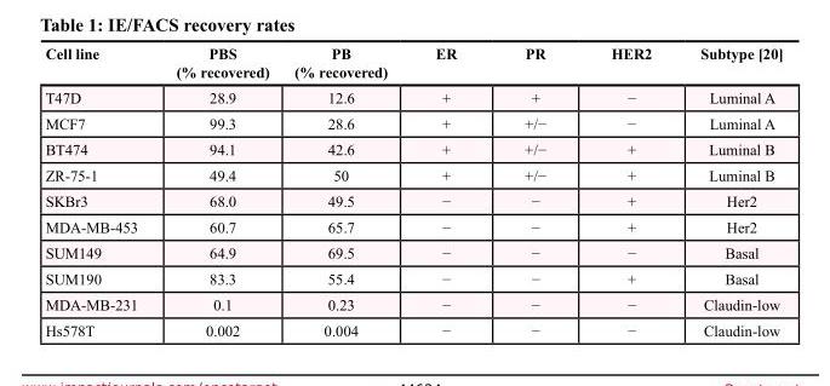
<table><thead><tr><td>Cell line</td><td>PBS (% recovered)</td><td>PB (% recovered)</td><td>ER</td><td>PR</td><td>HER2</td><td>Subtype [20]</td></tr></thead><tbody><tr><td>T47D</td><td>28.9</td><td>12.6</td><td>+</td><td>+</td><td>−</td><td>Luminal A</td></tr><tr><td>MCF7</td><td>99.3</td><td>28.6</td><td>+</td><td>+/−</td><td>−</td><td>Luminal A</td></tr><tr><td>BT474</td><td>94.1</td><td>42.6</td><td>+</td><td>+/−</td><td>+</td><td>Luminal B</td></tr><tr><td>ZR-75-1</td><td>49.4</td><td>50</td><td>+</td><td>+/−</td><td>+</td><td>Luminal B</td></tr><tr><td>SKBr3</td><td>68.0</td><td>49.5</td><td>−</td><td>−</td><td>+</td><td>Her2</td></tr><tr><td>MDA-MB-453</td><td>60.7</td><td>65.7</td><td>−</td><td>−</td><td>+</td><td>Her2</td></tr><tr><td>SUM149</td><td>64.9</td><td>69.5</td><td>−</td><td>−</td><td>−</td><td>Basal</td></tr><tr><td>SUM190</td><td>83.3</td><td>55.4</td><td>−</td><td>−</td><td>+</td><td>Basal</td></tr><tr><td>MDA-MB-231</td><td>0.1</td><td>0.23</td><td>−</td><td>−</td><td>−</td><td>Claudin-low</td></tr><tr><td>Hs578T</td><td>0.002</td><td>0.004</td><td>−</td><td>−</td><td>−</td><td>Claudin-low</td></tr></tbody></table>